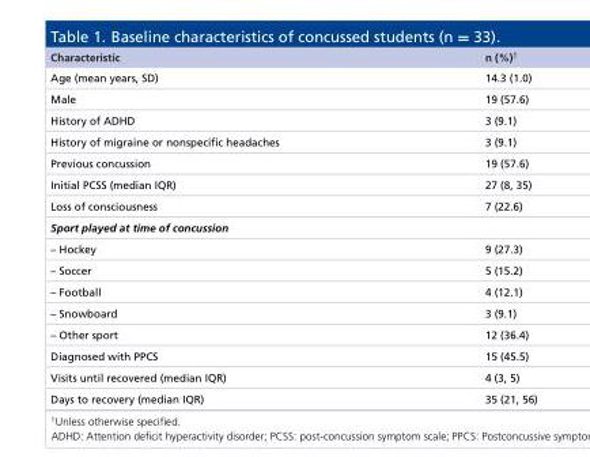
<table><thead><tr><td>Characteristic</td><td>n (%)<sup>†</sup></td></tr></thead><tbody><tr><td>Age (mean years, SD)</td><td>14.3 (1.0)</td></tr><tr><td>Male</td><td>19 (57.6)</td></tr><tr><td>History of ADHD</td><td>3 (9.1)</td></tr><tr><td>History of migraine or nonspecific headaches</td><td>3 (9.1)</td></tr><tr><td>Previous concussion</td><td>19 (57.6)</td></tr><tr><td>Initial PCSS (median IQR)</td><td>27 (8, 35)</td></tr><tr><td>Loss of consciousness</td><td>7 (22.6)</td></tr><tr><td colspan="2">Sport played at time of concussion</td></tr><tr><td>– Hockey</td><td>9 (27.3)</td></tr><tr><td>– Soccer</td><td>5 (15.2)</td></tr><tr><td>– Football</td><td>4 (12.1)</td></tr><tr><td>– Snowboard</td><td>3 (9.1)</td></tr><tr><td>– Other sport</td><td>12 (36.4)</td></tr><tr><td>Diagnosed with PPCS</td><td>15 (45.5)</td></tr><tr><td>Visits until recovered (median IQR)</td><td>4 (3, 5)</td></tr><tr><td>Days to recovery (median IQR)</td><td>35 (21, 56)</td></tr></tbody></table>